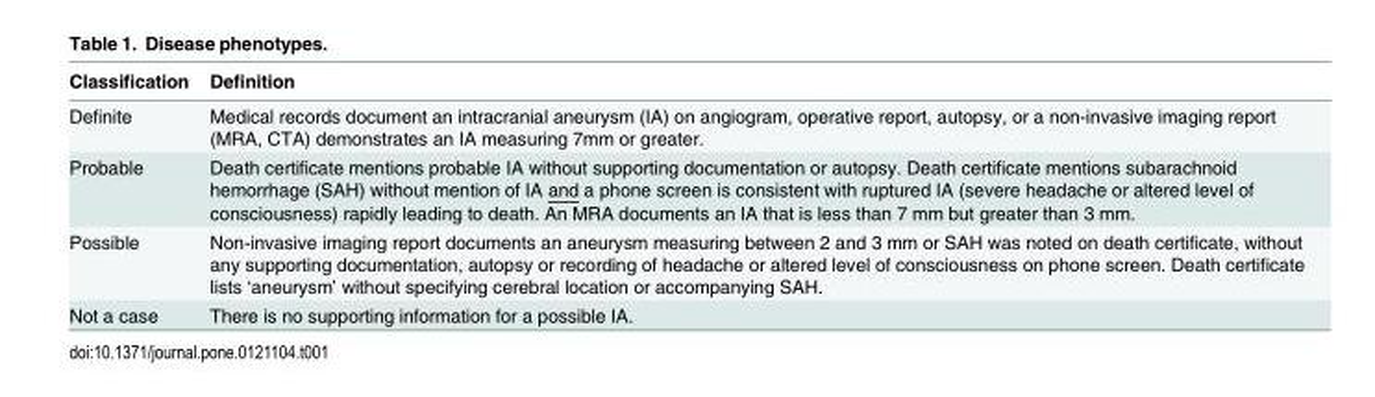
<table><thead><tr><td>Classification</td><td>Definition</td></tr></thead><tbody><tr><td>Definite</td><td>Medical records document an intracranial aneurysm (IA) on angiogram, operative report, autopsy, or a non-invasive imaging report (MRA, CTA) demonstrates an IA measuring 7mm or greater.</td></tr><tr><td>Probable</td><td>Death certificate mentions probable IA without supporting documentation or autopsy. Death certificate mentions subarachnoid hemorrhage (SAH) without mention of IA and a phone screen is consistent with ruptured IA (severe headache or altered level of consciousness) rapidly leading to death. An MRA documents an IA that is less than 7 mm but greater than 3 mm.</td></tr><tr><td>Possible</td><td>Non-invasive imaging report documents an aneurysm measuring between 2 and 3 mm or SAH was noted on death certificate, without any supporting documentation, autopsy or recording of headache or altered level of consciousness on phone screen. Death certificate lists ‘aneurysm’ without specifying cerebral location or accompanying SAH.</td></tr><tr><td>Not a case</td><td>There is no supporting information for a possible IA.</td></tr></tbody></table>